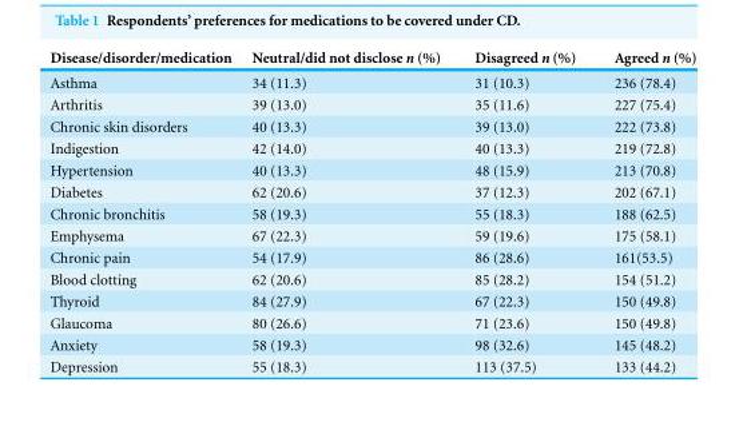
<table><thead><tr><td>Disease/disorder/medication</td><td>Neutral/did not disclose n (%)</td><td>Disagreed n (%)</td><td>Agreed n (%)</td></tr></thead><tbody><tr><td>Asthma</td><td>34 (11.3)</td><td>31 (10.3)</td><td>236 (78.4)</td></tr><tr><td>Arthritis</td><td>39 (13.0)</td><td>35 (11.6)</td><td>227 (75.4)</td></tr><tr><td>Chronic skin disorders</td><td>40 (13.3)</td><td>39 (13.0)</td><td>222 (73.8)</td></tr><tr><td>Indigestion</td><td>42 (14.0)</td><td>40 (13.3)</td><td>219 (72.8)</td></tr><tr><td>Hypertension</td><td>40 (13.3)</td><td>48 (15.9)</td><td>213 (70.8)</td></tr><tr><td>Diabetes</td><td>62 (20.6)</td><td>37 (12.3)</td><td>202 (67.1)</td></tr><tr><td>Chronic bronchitis</td><td>58 (19.3)</td><td>55 (18.3)</td><td>188 (62.5)</td></tr><tr><td>Emphysema</td><td>67 (22.3)</td><td>59 (19.6)</td><td>175 (58.1)</td></tr><tr><td>Chronic pain</td><td>54 (17.9)</td><td>86 (28.6)</td><td>161(53.5)</td></tr><tr><td>Blood clotting</td><td>62 (20.6)</td><td>85 (28.2)</td><td>154 (51.2)</td></tr><tr><td>Thyroid</td><td>84 (27.9)</td><td>67 (22.3)</td><td>150 (49.8)</td></tr><tr><td>Glaucoma</td><td>80 (26.6)</td><td>71 (23.6)</td><td>150 (49.8)</td></tr><tr><td>Anxiety</td><td>58 (19.3)</td><td>98 (32.6)</td><td>145 (48.2)</td></tr><tr><td>Depression</td><td>55 (18.3)</td><td>113 (37.5)</td><td>133 (44.2)</td></tr></tbody></table>